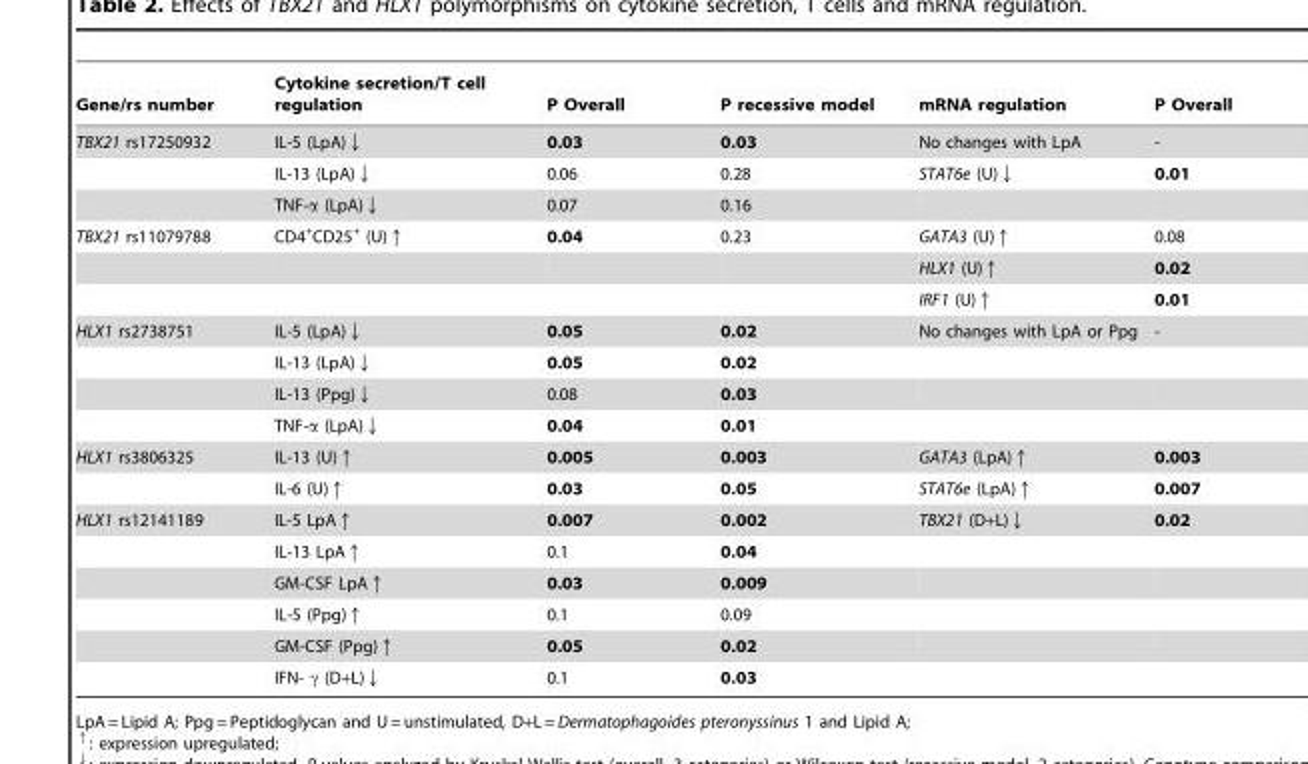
<table><thead><tr><td>Gene/rs number</td><td>Cytokine secretion/T cell regulation</td><td>P Overall</td><td>P recessive model</td><td>mRNA regulation</td><td>P Overall</td></tr></thead><tbody><tr><td rowspan="3">TBX21 rs17250932</td><td>IL-5 (LpA)↓</td><td>0.03</td><td>0.03</td><td>No changes with LpA</td><td>-</td></tr><tr><td>IL-13 (LpA)↓</td><td>0.06</td><td>0.28</td><td>STAT6e (U)↓</td><td>0.01</td></tr><tr><td>TNF-α (LpA)↓</td><td>0.07</td><td>0.16</td><td></td><td></td></tr><tr><td rowspan="3">TBX21 rs11079788</td><td>CD4<sup>+</sup>CD25<sup>+</sup> (U)↑</td><td>0.04</td><td>0.23</td><td>GATA3 (U)↑</td><td>0.08</td></tr><tr><td></td><td></td><td></td><td>HLX1 (U)↑</td><td>0.02</td></tr><tr><td></td><td></td><td></td><td>IRF1 (U)↑</td><td>0.01</td></tr><tr><td rowspan="4">HLX1 rs2738751</td><td>IL-5 (LpA)↓</td><td>0.05</td><td>0.02</td><td>No changes with LpA or Ppg</td><td>-</td></tr><tr><td>IL-13 (LpA)↓</td><td>0.05</td><td>0.02</td><td></td><td></td></tr><tr><td>IL-13 (Ppg)↓</td><td>0.08</td><td>0.03</td><td></td><td></td></tr><tr><td>TNF-α (LpA)↓</td><td>0.04</td><td>0.01</td><td></td><td></td></tr><tr><td rowspan="2">HLX1 rs3806325</td><td>IL-13 (U)↑</td><td>0.005</td><td>0.003</td><td>GATA3 (LpA)↑</td><td>0.003</td></tr><tr><td>IL-6 (U)↑</td><td>0.03</td><td>0.05</td><td>STAT6e (LpA)↑</td><td>0.007</td></tr><tr><td rowspan="6">HLX1 rs12141189</td><td>IL-5 LpA↑</td><td>0.007</td><td>0.002</td><td>TBX21 (D+L)↓</td><td>0.02</td></tr><tr><td>IL-13 LpA↑</td><td>0.1</td><td>0.04</td><td></td><td></td></tr><tr><td>GM-CSF LpA↑</td><td>0.03</td><td>0.009</td><td></td><td></td></tr><tr><td>IL-5 (Ppg)↑</td><td>0.1</td><td>0.09</td><td></td><td></td></tr><tr><td>GM-CSF (Ppg)↑</td><td>0.05</td><td>0.02</td><td></td><td></td></tr><tr><td>IFN- γ (D+L)↓</td><td>0.1</td><td>0.03</td><td></td><td></td></tr></tbody></table>